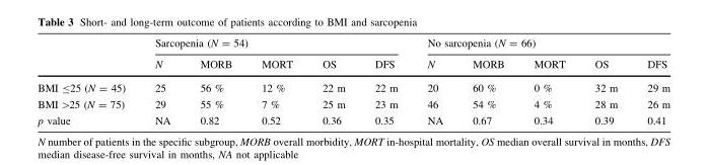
<table><thead><tr><td rowspan="2"></td><td colspan="5">Sarcopenia (N = 54)</td><td colspan="5">No sarcopenia (N = 66)</td></tr><tr><td>N</td><td>MORB</td><td>MORT</td><td>OS</td><td>DFS</td><td>N</td><td>MORB</td><td>MORT</td><td>OS</td><td>DFS</td></tr></thead><tbody><tr><td>BMI ≤25 (N = 45)</td><td>25</td><td>56 %</td><td>12 %</td><td>22 m</td><td>22 m</td><td>20</td><td>60 %</td><td>0 %</td><td>32 m</td><td>29 m</td></tr><tr><td>BMI &gt;25 (N = 75)</td><td>29</td><td>55 %</td><td>7 %</td><td>25 m</td><td>23 m</td><td>46</td><td>54 %</td><td>4 %</td><td>28 m</td><td>26 m</td></tr><tr><td>p value</td><td>NA</td><td>0.82</td><td>0.52</td><td>0.36</td><td>0.35</td><td>NA</td><td>0.67</td><td>0.34</td><td>0.39</td><td>0.41</td></tr></tbody></table>